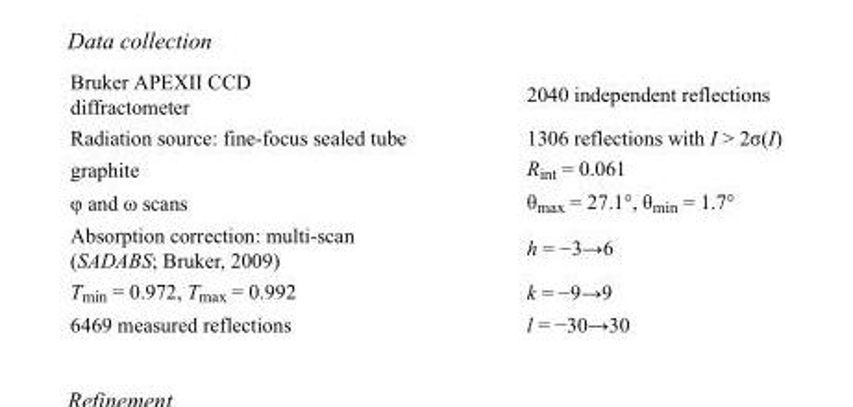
<table><tbody><tr><td>Bruker APEXII CCD diffractometer</td><td>2040 independent reflections</td></tr><tr><td>Radiation source: fine-focus sealed tube</td><td>1306 reflections with I &gt; 2σ(I)</td></tr><tr><td>graphite</td><td>R<sub>int</sub> = 0.061</td></tr><tr><td>φ and ω scans</td><td>θ<sub>max</sub> = 27.1°, θ<sub>min</sub> = 1.7°</td></tr><tr><td>Absorption correction: multi-scan (SADABS; Bruker, 2009)</td><td>h = −3→6</td></tr><tr><td>T<sub>min</sub> = 0.972, T<sub>max</sub> = 0.992</td><td>k = −9→9</td></tr><tr><td>6469 measured reflections</td><td>l = −30→30</td></tr></tbody></table>